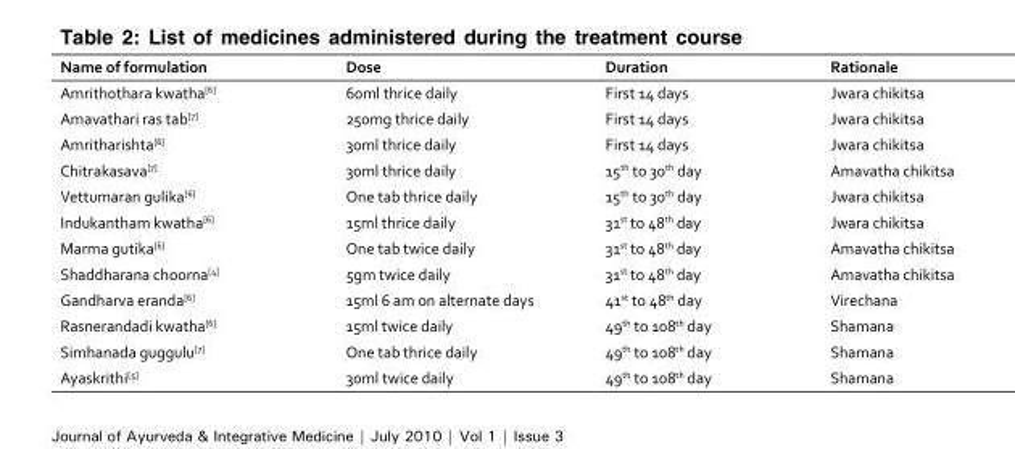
<table><thead><tr><td>Name of formulation</td><td>Dose</td><td>Duration</td><td>Rationale</td></tr></thead><tbody><tr><td>Amrithothara kwatha[6]</td><td>60ml thrice daily</td><td>First 14 days</td><td>Jwara chikitsa</td></tr><tr><td>Amavathari ras tab[7]</td><td>250mg thrice daily</td><td>First 14 days</td><td>Jwara chikitsa</td></tr><tr><td>Amritharishta[6]</td><td>30ml thrice daily</td><td>First 14 days</td><td>Jwara chikitsa</td></tr><tr><td>Chitrakasava[7]</td><td>30ml thrice daily</td><td>15<sup>th</sup> to 30<sup>th</sup> day</td><td>Amavatha chikitsa</td></tr><tr><td>Vettumaran gulika[6]</td><td>One tab thrice daily</td><td>15<sup>th</sup> to 30<sup>th</sup> day</td><td>Jwara chikitsa</td></tr><tr><td>Indukantham kwatha[6]</td><td>15ml thrice daily</td><td>31<sup>st</sup> to 48<sup>th</sup> day</td><td>Jwara chikitsa</td></tr><tr><td>Marma gutika[6]</td><td>One tab twice daily</td><td>31<sup>st</sup> to 48<sup>th</sup> day</td><td>Amavatha chikitsa</td></tr><tr><td>Shaddharana choorna[4]</td><td>5gm twice daily</td><td>31<sup>st</sup> to 48<sup>th</sup> day</td><td>Amavatha chikitsa</td></tr><tr><td>Gandharva eranda[6]</td><td>15ml 6 am on alternate days</td><td>41<sup>st</sup> to 48<sup>th</sup> day</td><td>Virechana</td></tr><tr><td>Rasnerandadi kwatha[6]</td><td>15ml twice daily</td><td>49<sup>th</sup> to 108<sup>th</sup> day</td><td>Shamana</td></tr><tr><td>Simhanada guggulu[7]</td><td>One tab thrice daily</td><td>49<sup>th</sup> to 108<sup>th</sup> day</td><td>Shamana</td></tr><tr><td>Ayaskrithi[5]</td><td>30ml twice daily</td><td>49<sup>th</sup> to 108<sup>th</sup> day</td><td>Shamana</td></tr></tbody></table>